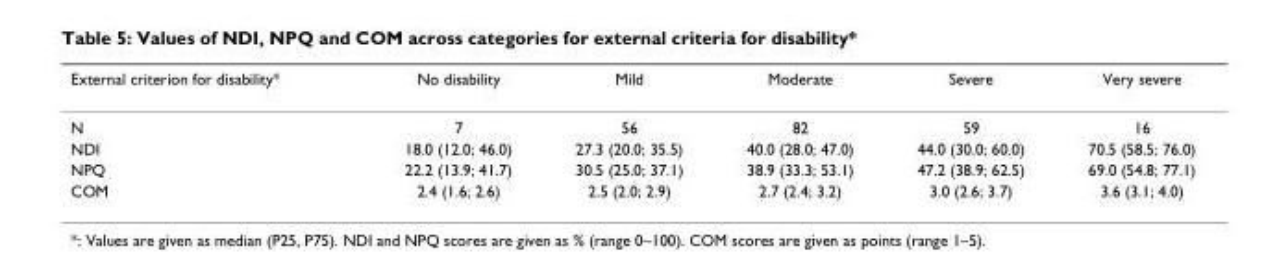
<table><thead><tr><td>External criterion for disability*</td><td>No disability</td><td>Mild</td><td>Moderate</td><td>Severe</td><td>Very severe</td></tr></thead><tbody><tr><td>N</td><td>7</td><td>56</td><td>82</td><td>59</td><td>16</td></tr><tr><td>NDI</td><td>18.0 (12.0; 46.0)</td><td>27.3 (20.0; 35.5)</td><td>40.0 (28.0; 47.0)</td><td>44.0 (30.0; 60.0)</td><td>70.5 (58.5; 76.0)</td></tr><tr><td>NPQ</td><td>22.2 (13.9; 41.7)</td><td>30.5 (25.0; 37.1)</td><td>38.9 (33.3; 53.1)</td><td>47.2 (38.9; 62.5)</td><td>69.0 (54.8; 77.1)</td></tr><tr><td>COM</td><td>2.4 (1.6; 2.6)</td><td>2.5 (2.0; 2.9)</td><td>2.7 (2.4; 3.2)</td><td>3.0 (2.6; 3.7)</td><td>3.6 (3.1; 4.0)</td></tr></tbody></table>